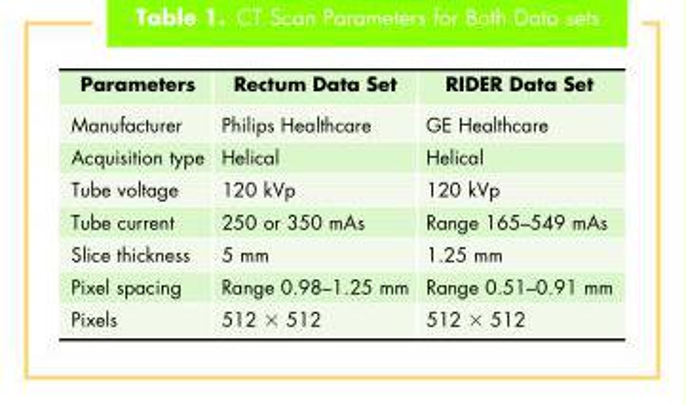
<table><thead><tr><td>Parameters</td><td>Rectum Data Set</td><td>RIDER Data Set</td></tr></thead><tbody><tr><td>Manufacturer</td><td>Philips Healthcare</td><td>GE Healthcare</td></tr><tr><td>Acquisition type</td><td>Helical</td><td>Helical</td></tr><tr><td>Tube voltage</td><td>120 kVp</td><td>120 kVp</td></tr><tr><td>Tube current</td><td>250 or 350 mAs</td><td>Range 165–549 mAs</td></tr><tr><td>Slice thickness</td><td>5 mm</td><td>1.25 mm</td></tr><tr><td>Pixel spacing</td><td>Range 0.98–1.25 mm</td><td>Range 0.51–0.91 mm</td></tr><tr><td>Pixels</td><td>512 × 512</td><td>512 × 512</td></tr></tbody></table>